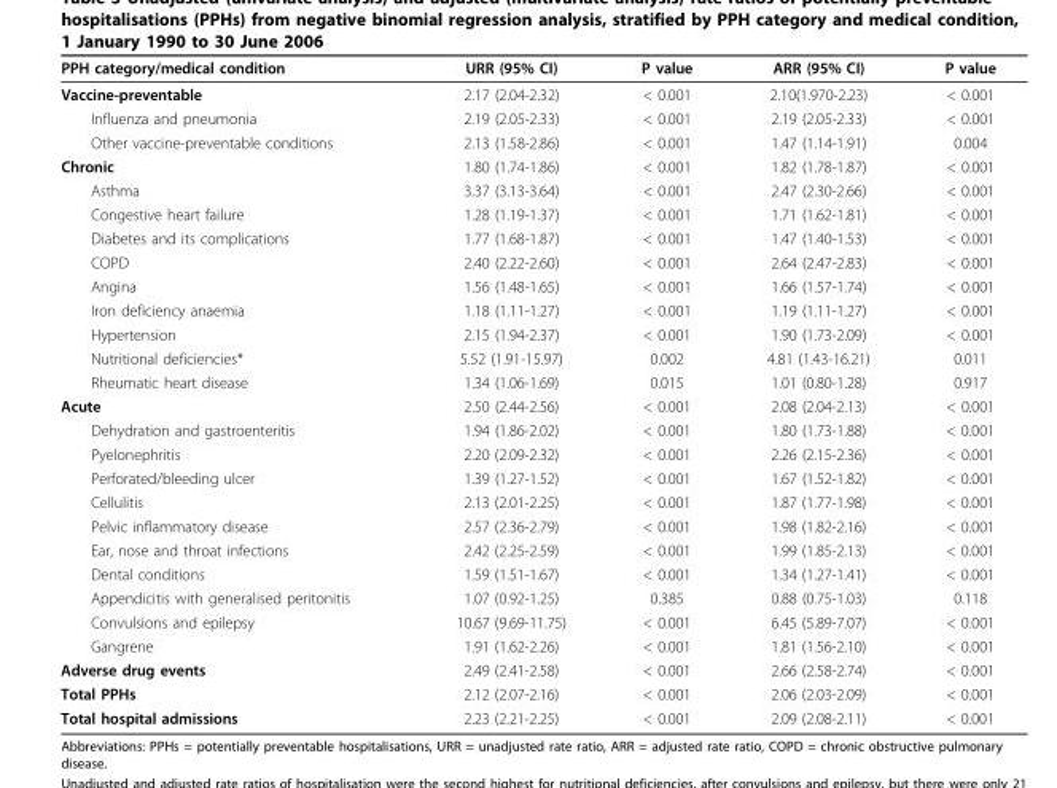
<table><thead><tr><td>PPH category/medical condition</td><td>URR (95% CI)</td><td>P value</td><td>ARR (95% CI)</td><td>P value</td></tr></thead><tbody><tr><td>Vaccine-preventable</td><td>2.17 (2.04-2.32)</td><td>&lt; 0.001</td><td>2.10(1.970-2.23)</td><td>&lt; 0.001</td></tr><tr><td>Influenza and pneumonia</td><td>2.19 (2.05-2.33)</td><td>&lt; 0.001</td><td>2.19 (2.05-2.33)</td><td>&lt; 0.001</td></tr><tr><td>Other vaccine-preventable conditions</td><td>2.13 (1.58-2.86)</td><td>&lt; 0.001</td><td>1.47 (1.14-1.91)</td><td>0.004</td></tr><tr><td>Chronic</td><td>1.80 (1.74-1.86)</td><td>&lt; 0.001</td><td>1.82 (1.78-1.87)</td><td>&lt; 0.001</td></tr><tr><td>Asthma</td><td>3.37 (3.13-3.64)</td><td>&lt; 0.001</td><td>2.47 (2.30-2.66)</td><td>&lt; 0.001</td></tr><tr><td>Congestive heart failure</td><td>1.28 (1.19-1.37)</td><td>&lt; 0.001</td><td>1.71 (1.62-1.81)</td><td>&lt; 0.001</td></tr><tr><td>Diabetes and its complications</td><td>1.77 (1.68-1.87)</td><td>&lt; 0.001</td><td>1.47 (1.40-1.53)</td><td>&lt; 0.001</td></tr><tr><td>COPD</td><td>2.40 (2.22-2.60)</td><td>&lt; 0.001</td><td>2.64 (2.47-2.83)</td><td>&lt; 0.001</td></tr><tr><td>Angina</td><td>1.56 (1.48-1.65)</td><td>&lt; 0.001</td><td>1.66 (1.57-1.74)</td><td>&lt; 0.001</td></tr><tr><td>Iron deficiency anaemia</td><td>1.18 (1.11-1.27)</td><td>&lt; 0.001</td><td>1.19 (1.11-1.27)</td><td>&lt; 0.001</td></tr><tr><td>Hypertension</td><td>2.15 (1.94-2.37)</td><td>&lt; 0.001</td><td>1.90 (1.73-2.09)</td><td>&lt; 0.001</td></tr><tr><td>Nutritional deficiencies*</td><td>5.52 (1.91-15.97)</td><td>0.002</td><td>4.81 (1.43-16.21)</td><td>0.011</td></tr><tr><td>Rheumatic heart disease</td><td>1.34 (1.06-1.69)</td><td>0.015</td><td>1.01 (0.80-1.28)</td><td>0.917</td></tr><tr><td>Acute</td><td>2.50 (2.44-2.56)</td><td>&lt; 0.001</td><td>2.08 (2.04-2.13)</td><td>&lt; 0.001</td></tr><tr><td>Dehydration and gastroenteritis</td><td>1.94 (1.86-2.02)</td><td>&lt; 0.001</td><td>1.80 (1.73-1.88)</td><td>&lt; 0.001</td></tr><tr><td>Pyelonephritis</td><td>2.20 (2.09-2.32)</td><td>&lt; 0.001</td><td>2.26 (2.15-2.36)</td><td>&lt; 0.001</td></tr><tr><td>Perforated/bleeding ulcer</td><td>1.39 (1.27-1.52)</td><td>&lt; 0.001</td><td>1.67 (1.52-1.82)</td><td>&lt; 0.001</td></tr><tr><td>Cellulitis</td><td>2.13 (2.01-2.25)</td><td>&lt; 0.001</td><td>1.87 (1.77-1.98)</td><td>&lt; 0.001</td></tr><tr><td>Pelvic inflammatory disease</td><td>2.57 (2.36-2.79)</td><td>&lt; 0.001</td><td>1.98 (1.82-2.16)</td><td>&lt; 0.001</td></tr><tr><td>Ear, nose and throat infections</td><td>2.42 (2.25-2.59)</td><td>&lt; 0.001</td><td>1.99 (1.85-2.13)</td><td>&lt; 0.001</td></tr><tr><td>Dental conditions</td><td>1.59 (1.51-1.67)</td><td>&lt; 0.001</td><td>1.34 (1.27-1.41)</td><td>&lt; 0.001</td></tr><tr><td>Appendicitis with generalised peritonitis</td><td>1.07 (0.92-1.25)</td><td>0.385</td><td>0.88 (0.75-1.03)</td><td>0.118</td></tr><tr><td>Convulsions and epilepsy</td><td>10.67 (9.69-11.75)</td><td>&lt; 0.001</td><td>6.45 (5.89-7.07)</td><td>&lt; 0.001</td></tr><tr><td>Gangrene</td><td>1.91 (1.62-2.26)</td><td>&lt; 0.001</td><td>1.81 (1.56-2.10)</td><td>&lt; 0.001</td></tr><tr><td>Adverse drug events</td><td>2.49 (2.41-2.58)</td><td>&lt; 0.001</td><td>2.66 (2.58-2.74)</td><td>&lt; 0.001</td></tr><tr><td>Total PPHs</td><td>2.12 (2.07-2.16)</td><td>&lt; 0.001</td><td>2.06 (2.03-2.09)</td><td>&lt; 0.001</td></tr><tr><td>Total hospital admissions</td><td>2.23 (2.21-2.25)</td><td>&lt; 0.001</td><td>2.09 (2.08-2.11)</td><td>&lt; 0.001</td></tr></tbody></table>